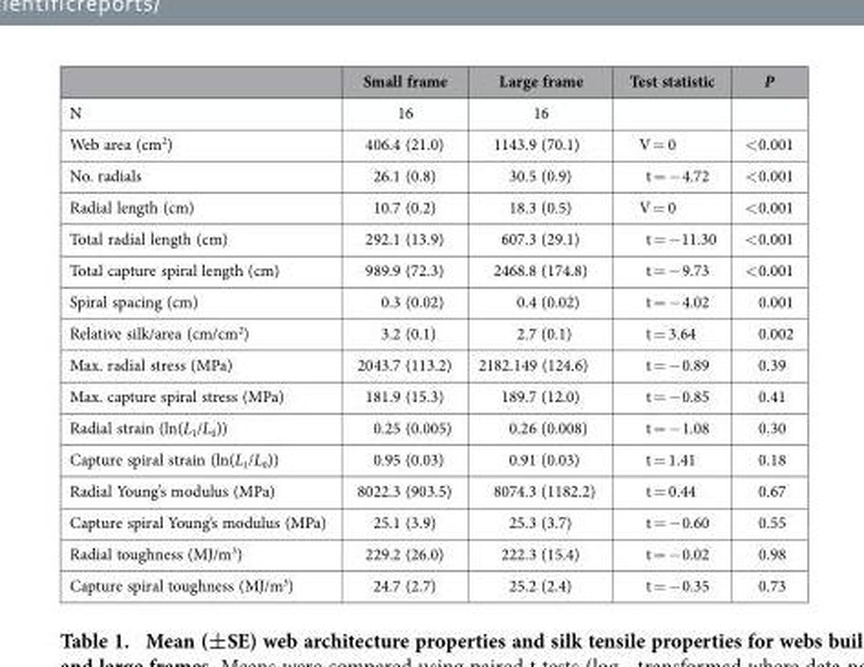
<table><thead><tr><td></td><td>Small frame</td><td>Large frame</td><td>Test statistic</td><td>P</td></tr></thead><tbody><tr><td>N</td><td>16</td><td>16</td><td></td><td></td></tr><tr><td>Web area (cm<sup>2</sup>)</td><td>406.4 (21.0)</td><td>1143.9 (70.1)</td><td>V = 0</td><td>&lt; 0.001</td></tr><tr><td>No. radials</td><td>26.1 (0.8)</td><td>30.5 (0.9)</td><td>t = − 4.72</td><td>&lt; 0.001</td></tr><tr><td>Radial length (cm)</td><td>10.7 (0.2)</td><td>18.3 (0.5)</td><td>V = 0</td><td>&lt; 0.001</td></tr><tr><td>Total radial length (cm)</td><td>292.1 (13.9)</td><td>607.3 (29.1)</td><td>t = −11.30</td><td>&lt; 0.001</td></tr><tr><td>Total capture spiral length (cm)</td><td>989.9 (72.3)</td><td>2468.8 (174.8)</td><td>t = − 9.73</td><td>&lt; 0.001</td></tr><tr><td>Spiral spacing (cm)</td><td>0.3 (0.02)</td><td>0.4 (0.02)</td><td>t = − 4.02</td><td>0.001</td></tr><tr><td>Relative silk/area (cm/cm<sup>2</sup>)</td><td>3.2 (0.1)</td><td>2.7 (0.1)</td><td>t = 3.64</td><td>0.002</td></tr><tr><td>Max. radial stress (MPa)</td><td>2043.7 (113.2)</td><td>2182.149 (124.6)</td><td>t = − 0.89</td><td>0.39</td></tr><tr><td>Max. capture spiral stress (MPa)</td><td>181.9 (15.3)</td><td>189.7 (12.0)</td><td>t = − 0.85</td><td>0.41</td></tr><tr><td>Radial strain (ln(L<sub>1</sub>/L<sub>0</sub>))</td><td>0.25 (0.005)</td><td>0.26 (0.008)</td><td>t = − 1.08</td><td>0.30</td></tr><tr><td>Capture spiral strain (ln(L<sub>1</sub>/L<sub>0</sub>))</td><td>0.95 (0.03)</td><td>0.91 (0.03)</td><td>t = 1.41</td><td>0.18</td></tr><tr><td>Radial Young’s modulus (MPa)</td><td>8022.3 (903.5)</td><td>8074.3 (1182.2)</td><td>t = 0.44</td><td>0.67</td></tr><tr><td>Capture spiral Young’s modulus (MPa)</td><td>25.1 (3.9)</td><td>25.3 (3.7)</td><td>t = − 0.60</td><td>0.55</td></tr><tr><td>Radial toughness (MJ/m<sup>3</sup>)</td><td>229.2 (26.0)</td><td>222.3 (15.4)</td><td>t = − 0.02</td><td>0.98</td></tr><tr><td>Capture spiral toughness (MJ/m<sup>3</sup>)</td><td>24.7 (2.7)</td><td>25.2 (2.4)</td><td>t = − 0.35</td><td>0.73</td></tr></tbody></table>